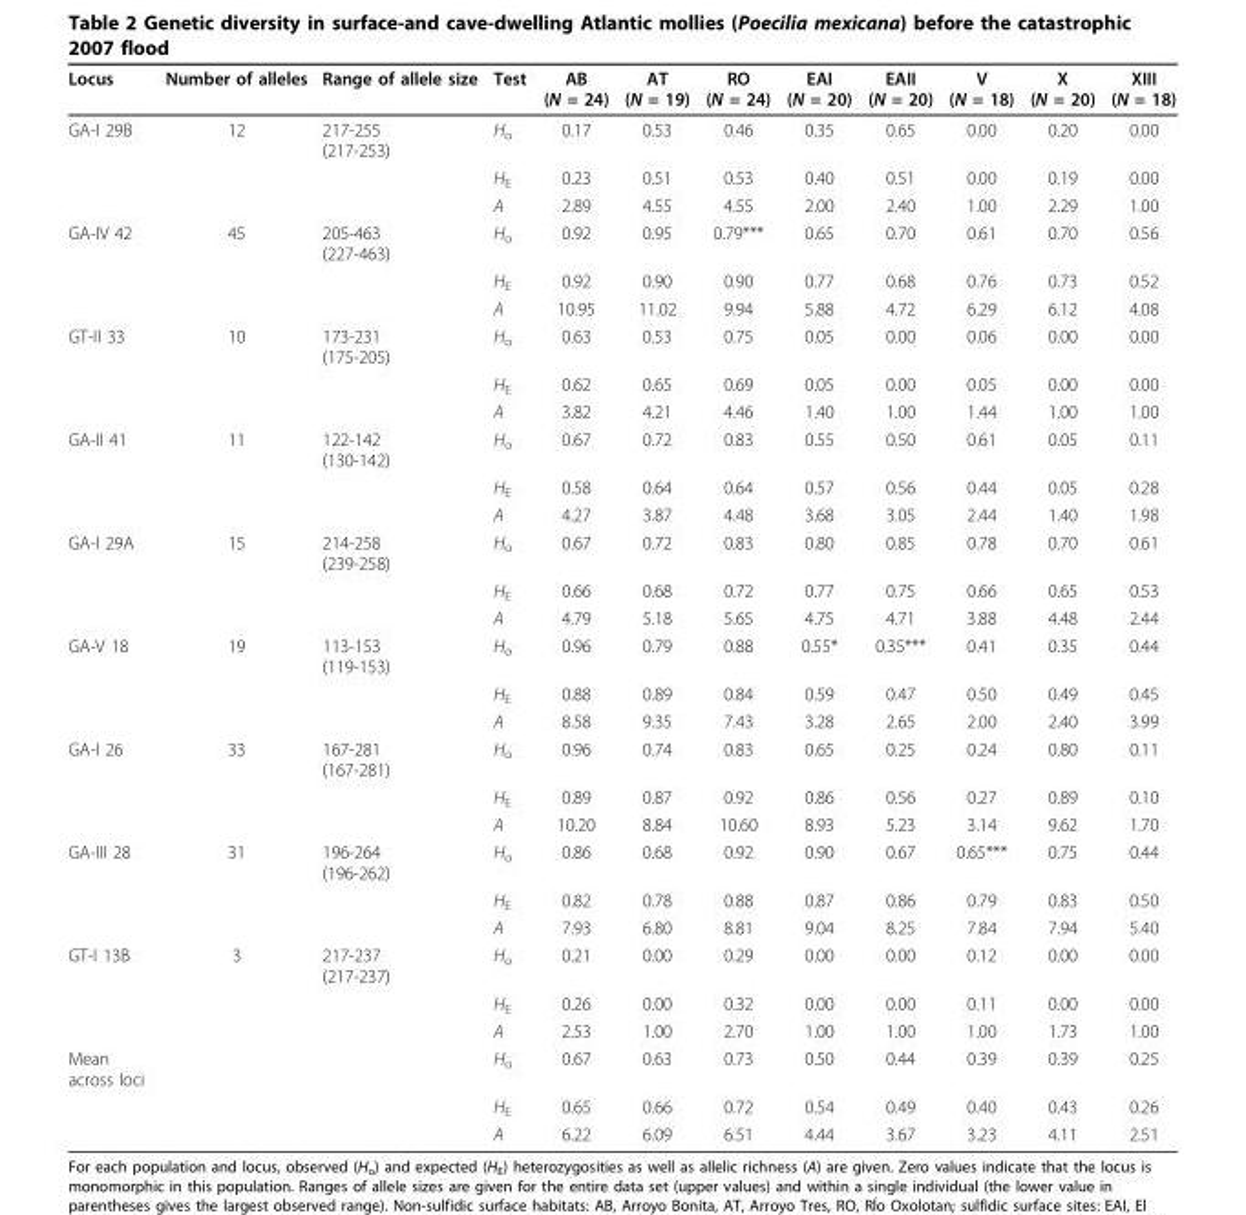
<table><thead><tr><td>Locus</td><td>Number of alleles</td><td>Range of allele size</td><td>Test</td><td>AB (N = 24)</td><td>AT (N = 19)</td><td>RO (N = 24)</td><td>EAI (N = 20)</td><td>EAII (N = 20)</td><td>V (N = 18)</td><td>X (N = 20)</td><td>XIII (N = 18)</td></tr></thead><tbody><tr><td rowspan="3">GA-I 29B</td><td>12</td><td>217-255 (217-253)</td><td>H<sub>o</sub></td><td>0.17</td><td>0.53</td><td>0.46</td><td>0.35</td><td>0.65</td><td>0.00</td><td>0.20</td><td>0.00</td></tr><tr><td></td><td></td><td>H<sub>E</sub></td><td>0.23</td><td>0.51</td><td>0.53</td><td>0.40</td><td>0.51</td><td>0.00</td><td>0.19</td><td>0.00</td></tr><tr><td></td><td></td><td>A</td><td>2.89</td><td>4.55</td><td>4.55</td><td>2.00</td><td>2.40</td><td>1.00</td><td>2.29</td><td>1.00</td></tr><tr><td rowspan="3">GA-IV 42</td><td>45</td><td>205-463 (227-463)</td><td>H<sub>o</sub></td><td>0.92</td><td>0.95</td><td>0.79***</td><td>0.65</td><td>0.70</td><td>0.61</td><td>0.70</td><td>0.56</td></tr><tr><td></td><td></td><td>H<sub>E</sub></td><td>0.92</td><td>0.90</td><td>0.90</td><td>0.77</td><td>0.68</td><td>0.76</td><td>0.73</td><td>0.52</td></tr><tr><td></td><td></td><td>A</td><td>10.95</td><td>11.02</td><td>9.94</td><td>5.88</td><td>4.72</td><td>6.29</td><td>6.12</td><td>4.08</td></tr><tr><td rowspan="3">GT-II 33</td><td>10</td><td>173-231 (175-205)</td><td>H<sub>o</sub></td><td>0.63</td><td>0.53</td><td>0.75</td><td>0.05</td><td>0.00</td><td>0.06</td><td>0.00</td><td>0.00</td></tr><tr><td></td><td></td><td>H<sub>E</sub></td><td>0.62</td><td>0.65</td><td>0.69</td><td>0.05</td><td>0.00</td><td>0.05</td><td>0.00</td><td>0.00</td></tr><tr><td></td><td></td><td>A</td><td>3.82</td><td>4.21</td><td>4.46</td><td>1.40</td><td>1.00</td><td>1.44</td><td>1.00</td><td>1.00</td></tr><tr><td rowspan="3">GA-II 41</td><td>11</td><td>122-142 (130-142)</td><td>H<sub>o</sub></td><td>0.67</td><td>0.72</td><td>0.83</td><td>0.55</td><td>0.50</td><td>0.61</td><td>0.05</td><td>0.11</td></tr><tr><td></td><td></td><td>H<sub>E</sub></td><td>0.58</td><td>0.64</td><td>0.64</td><td>0.57</td><td>0.56</td><td>0.44</td><td>0.05</td><td>0.28</td></tr><tr><td></td><td></td><td>A</td><td>4.27</td><td>3.87</td><td>4.48</td><td>3.68</td><td>3.05</td><td>2.44</td><td>1.40</td><td>1.98</td></tr><tr><td rowspan="3">GA-I 29A</td><td>15</td><td>214-258 (239-258)</td><td>H<sub>o</sub></td><td>0.67</td><td>0.72</td><td>0.83</td><td>0.80</td><td>0.85</td><td>0.78</td><td>0.70</td><td>0.61</td></tr><tr><td></td><td></td><td>H<sub>E</sub></td><td>0.66</td><td>0.68</td><td>0.72</td><td>0.77</td><td>0.75</td><td>0.66</td><td>0.65</td><td>0.53</td></tr><tr><td></td><td></td><td>A</td><td>4.79</td><td>5.18</td><td>5.65</td><td>4.75</td><td>4.71</td><td>3.88</td><td>4.48</td><td>2.44</td></tr><tr><td rowspan="3">GA-V 18</td><td>19</td><td>113-153 (119-153)</td><td>H<sub>o</sub></td><td>0.96</td><td>0.79</td><td>0.88</td><td>0.55*</td><td>0.35***</td><td>0.41</td><td>0.35</td><td>0.44</td></tr><tr><td></td><td></td><td>H<sub>E</sub></td><td>0.88</td><td>0.89</td><td>0.84</td><td>0.59</td><td>0.47</td><td>0.50</td><td>0.49</td><td>0.45</td></tr><tr><td></td><td></td><td>A</td><td>8.58</td><td>9.35</td><td>7.43</td><td>3.28</td><td>2.65</td><td>2.00</td><td>2.40</td><td>3.99</td></tr><tr><td rowspan="3">GA-I 26</td><td>33</td><td>167-281 (167-281)</td><td>H<sub>o</sub></td><td>0.96</td><td>0.74</td><td>0.83</td><td>0.65</td><td>0.25</td><td>0.24</td><td>0.80</td><td>0.11</td></tr><tr><td></td><td></td><td>H<sub>E</sub></td><td>0.89</td><td>0.87</td><td>0.92</td><td>0.86</td><td>0.56</td><td>0.27</td><td>0.89</td><td>0.10</td></tr><tr><td></td><td></td><td>A</td><td>10.20</td><td>8.84</td><td>10.60</td><td>8.93</td><td>5.23</td><td>3.14</td><td>9.62</td><td>1.70</td></tr><tr><td rowspan="3">GA-III 28</td><td>31</td><td>196-264 (196-262)</td><td>H<sub>o</sub></td><td>0.86</td><td>0.68</td><td>0.92</td><td>0.90</td><td>0.67</td><td>0.65***</td><td>0.75</td><td>0.44</td></tr><tr><td></td><td></td><td>H<sub>E</sub></td><td>0.82</td><td>0.78</td><td>0.88</td><td>0.87</td><td>0.86</td><td>0.79</td><td>0.83</td><td>0.50</td></tr><tr><td></td><td></td><td>A</td><td>7.93</td><td>6.80</td><td>8.81</td><td>9.04</td><td>8.25</td><td>7.84</td><td>7.94</td><td>5.40</td></tr><tr><td rowspan="3">GT-I 13B</td><td>3</td><td>217-237 (217-237)</td><td>H<sub>o</sub></td><td>0.21</td><td>0.00</td><td>0.29</td><td>0.00</td><td>0.00</td><td>0.12</td><td>0.00</td><td>0.00</td></tr><tr><td></td><td></td><td>H<sub>E</sub></td><td>0.26</td><td>0.00</td><td>0.32</td><td>0.00</td><td>0.00</td><td>0.11</td><td>0.00</td><td>0.00</td></tr><tr><td></td><td></td><td>A</td><td>2.53</td><td>1.00</td><td>2.70</td><td>1.00</td><td>1.00</td><td>1.00</td><td>1.73</td><td>1.00</td></tr><tr><td rowspan="3">Mean across loci</td><td></td><td></td><td>H<sub>o</sub></td><td>0.67</td><td>0.63</td><td>0.73</td><td>0.50</td><td>0.44</td><td>0.39</td><td>0.39</td><td>0.25</td></tr><tr><td></td><td></td><td>H<sub>E</sub></td><td>0.65</td><td>0.66</td><td>0.72</td><td>0.54</td><td>0.49</td><td>0.40</td><td>0.43</td><td>0.26</td></tr><tr><td></td><td></td><td>A</td><td>6.22</td><td>6.09</td><td>6.51</td><td>4.44</td><td>3.67</td><td>3.23</td><td>4.11</td><td>2.51</td></tr></tbody></table>